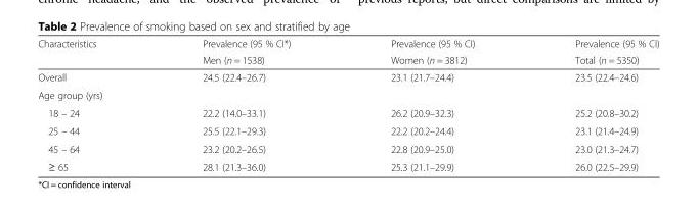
<table><thead><tr><td rowspan="2">Characteristics</td><td rowspan="2">Prevalence (95 % CI*) Men (n = 1538)</td><td rowspan="2">Prevalence (95 % CI) Women (n = 3812)</td><td rowspan="2">Prevalence (95 % CI) Total (n = 5350)</td></tr><tr></tr></thead><tbody><tr><td>Overall</td><td>24.5 (22.4–26.7)</td><td>23.1 (21.7–24.4)</td><td>23.5 (22.4–24.6)</td></tr><tr><td colspan="4">Age group (yrs)</td></tr><tr><td>18 – 24</td><td>22.2 (14.0–33.1)</td><td>26.2 (20.9–32.3)</td><td>25.2 (20.8–30.2)</td></tr><tr><td>25 – 44</td><td>25.5 (22.1–29.3)</td><td>22.2 (20.2–24.4)</td><td>23.1 (21.4–24.9)</td></tr><tr><td>45 – 64</td><td>23.2 (20.2–26.5)</td><td>22.8 (20.9–25.0)</td><td>23.0 (21.3–24.7)</td></tr><tr><td>≥ 65</td><td>28.1 (21.3–36.0)</td><td>25.3 (21.1–29.9)</td><td>26.0 (22.5–29.9)</td></tr></tbody></table>